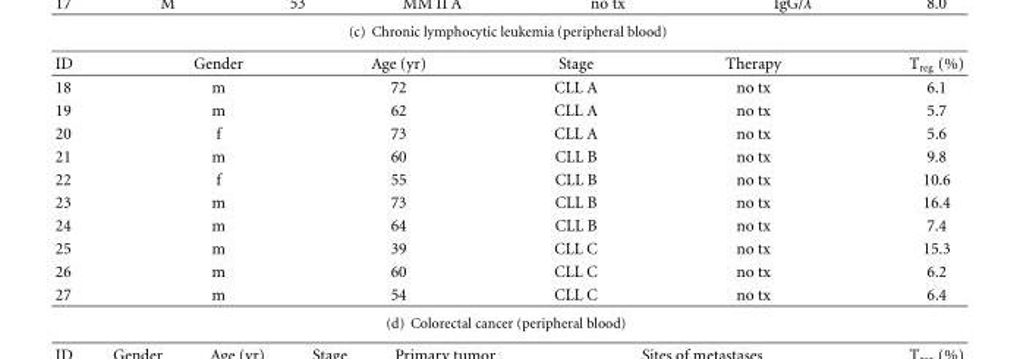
<table><thead><tr><td>ID</td><td>Gender</td><td>Age (yr)</td><td>Stage</td><td>Therapy</td><td>T<sub>reg</sub> (%)</td></tr></thead><tbody><tr><td>18</td><td>m</td><td>72</td><td>CLL A</td><td>no tx</td><td>6.1</td></tr><tr><td>19</td><td>m</td><td>62</td><td>CLL A</td><td>no tx</td><td>5.7</td></tr><tr><td>20</td><td>f</td><td>73</td><td>CLL A</td><td>no tx</td><td>5.6</td></tr><tr><td>21</td><td>m</td><td>60</td><td>CLL B</td><td>no tx</td><td>9.8</td></tr><tr><td>22</td><td>f</td><td>55</td><td>CLL B</td><td>no tx</td><td>10.6</td></tr><tr><td>23</td><td>m</td><td>73</td><td>CLL B</td><td>no tx</td><td>16.4</td></tr><tr><td>24</td><td>m</td><td>64</td><td>CLL B</td><td>no tx</td><td>7.4</td></tr><tr><td>25</td><td>m</td><td>39</td><td>CLL C</td><td>no tx</td><td>15.3</td></tr><tr><td>26</td><td>m</td><td>60</td><td>CLL C</td><td>no tx</td><td>6.2</td></tr><tr><td>27</td><td>m</td><td>54</td><td>CLL C</td><td>no tx</td><td>6.4</td></tr></tbody></table>